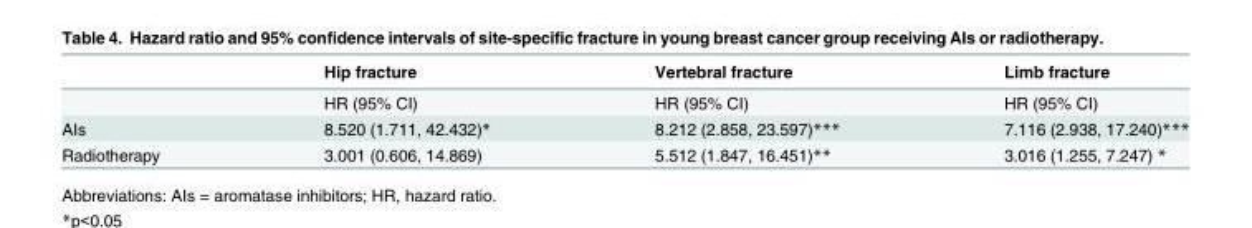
<table><thead><tr><td></td><td>Hip fracture</td><td>Vertebral fracture</td><td>Limb fracture</td></tr></thead><tbody><tr><td></td><td>HR (95% CI)</td><td>HR (95% CI)</td><td>HR (95% CI)</td></tr><tr><td>AIs</td><td>8.520 (1.711, 42.432)*</td><td>8.212 (2.858, 23.597)***</td><td>7.116 (2.938, 17.240)***</td></tr><tr><td>Radiotherapy</td><td>3.001 (0.606, 14.869)</td><td>5.512 (1.847, 16.451)**</td><td>3.016 (1.255, 7.247) *</td></tr></tbody></table>